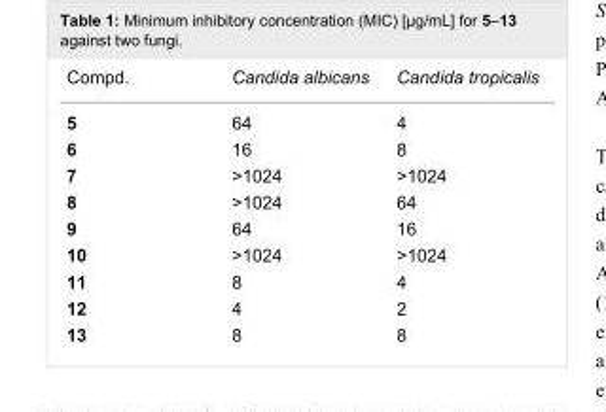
<table><tbody><tr><td>Compd.</td><td>Candida albicans</td><td>Candida tropicalis</td></tr><tr><td>5</td><td>64</td><td>4</td></tr><tr><td>6</td><td>16</td><td>8</td></tr><tr><td>7</td><td>&gt;1024</td><td>&gt;1024</td></tr><tr><td>8</td><td>&gt;1024</td><td>64</td></tr><tr><td>9</td><td>64</td><td>16</td></tr><tr><td>10</td><td>&gt;1024</td><td>&gt;1024</td></tr><tr><td>11</td><td>8</td><td>4</td></tr><tr><td>12</td><td>4</td><td>2</td></tr><tr><td>13</td><td>8</td><td>8</td></tr></tbody></table>